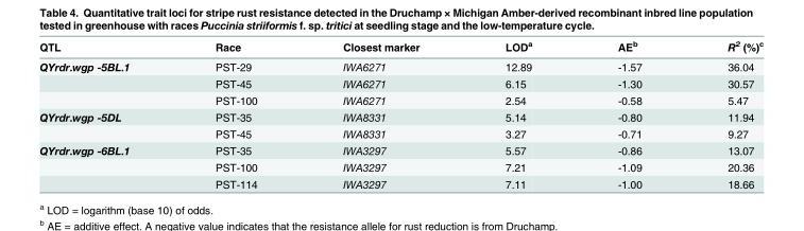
<table><thead><tr><td>QTL</td><td>Race</td><td>Closest marker</td><td>LOD<sup>a</sup></td><td>AE<sup>b</sup></td><td>R<sup>2</sup> (%)<sup>c</sup></td></tr></thead><tbody><tr><td rowspan="3">QYrdr.wgp -5BL.1</td><td>PST-29</td><td>IWA6271</td><td>12.89</td><td>-1.57</td><td>36.04</td></tr><tr><td>PST-45</td><td>IWA6271</td><td>6.15</td><td>-1.30</td><td>30.57</td></tr><tr><td>PST-100</td><td>IWA6271</td><td>2.54</td><td>-0.58</td><td>5.47</td></tr><tr><td rowspan="2">QYrdr.wgp -5DL</td><td>PST-35</td><td>IWA8331</td><td>5.14</td><td>-0.80</td><td>11.94</td></tr><tr><td>PST-45</td><td>IWA8331</td><td>3.27</td><td>-0.71</td><td>9.27</td></tr><tr><td rowspan="3">QYrdr.wgp -6BL.1</td><td>PST-35</td><td>IWA3297</td><td>5.57</td><td>-0.86</td><td>13.07</td></tr><tr><td>PST-100</td><td>IWA3297</td><td>7.21</td><td>-1.09</td><td>20.36</td></tr><tr><td>PST-114</td><td>IWA3297</td><td>7.11</td><td>-1.00</td><td>18.66</td></tr></tbody></table>